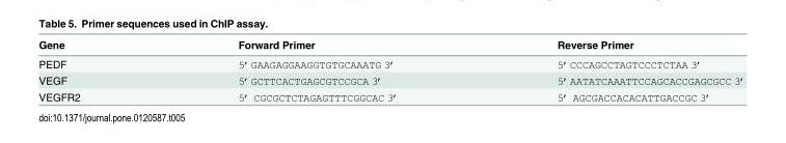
<table><thead><tr><td>Gene</td><td>Forward Primer</td><td>Reverse Primer</td></tr></thead><tbody><tr><td>PEDF</td><td>5’GAAGAGGAAGGTGTGCAAATG 3’</td><td>5’CCCAGCCTAGTCCCTCTAA 3’</td></tr><tr><td>VEGF</td><td>5’GCTTCACTGAGCGTCCGCA 3’</td><td>5’AATATCAAATTCCAGCACCGAGCGCC 3’</td></tr><tr><td>VEGFR2</td><td>5’ CGCGCTCTAGAGTTTCGGCAC 3’</td><td>5’ AGCGACCACACATTGACCGC 3’</td></tr></tbody></table>